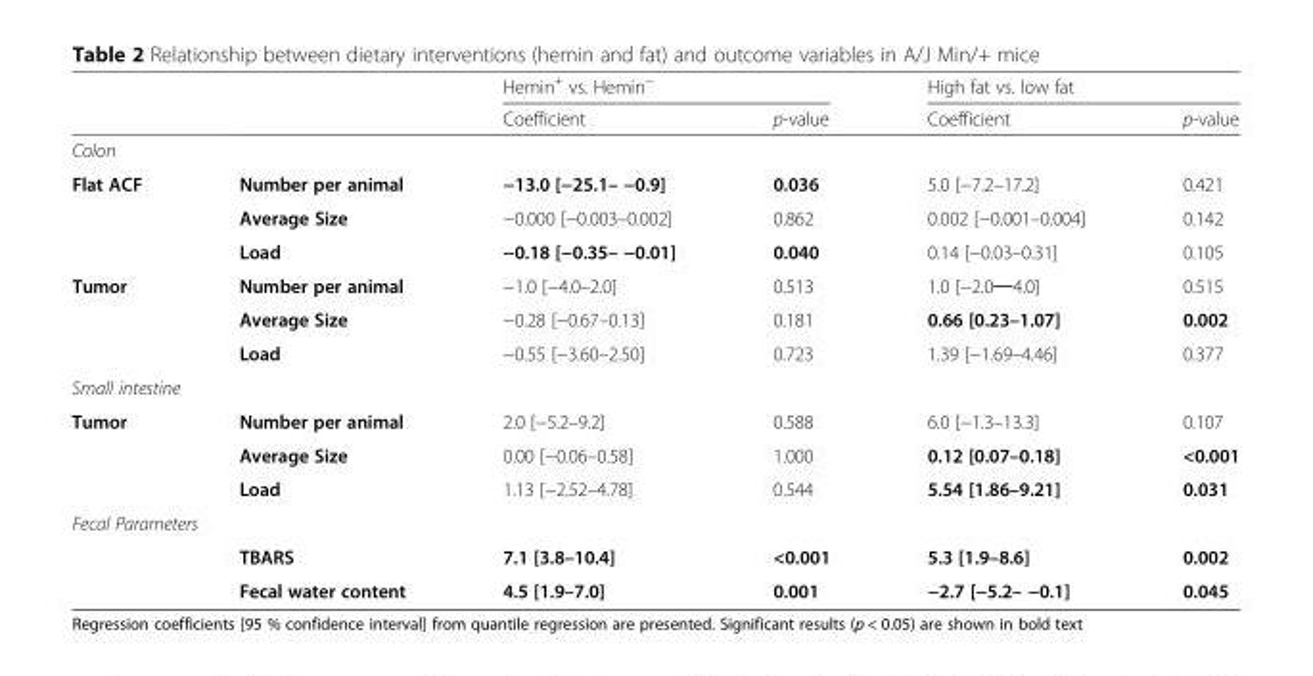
<table><thead><tr><td rowspan="2"></td><td rowspan="2"></td><td colspan="2">Hemin<sup>+</sup> vs. Hemin<sup>−</sup></td><td colspan="2">High fat vs. low fat</td></tr><tr><td>Coefficient</td><td>p-value</td><td>Coefficient</td><td>p-value</td></tr></thead><tbody><tr><td colspan="6">Colon</td></tr><tr><td rowspan="3">Flat ACF</td><td>Number per animal</td><td>−13.0 [−25.1– −0.9]</td><td>0.036</td><td>5.0 [−7.2–17.2]</td><td>0.421</td></tr><tr><td>Average Size</td><td>−0.000 [−0.003–0.002]</td><td>0.862</td><td>0.002 [−0.001–0.004]</td><td>0.142</td></tr><tr><td>Load</td><td>−0.18 [−0.35– −0.01]</td><td>0.040</td><td>0.14 [−0.03–0.31]</td><td>0.105</td></tr><tr><td rowspan="3">Tumor</td><td>Number per animal</td><td>−1.0 [−4.0–2.0]</td><td>0.513</td><td>1.0 [−2.0─4.0]</td><td>0.515</td></tr><tr><td>Average Size</td><td>−0.28 [−0.67–0.13]</td><td>0.181</td><td>0.66 [0.23–1.07]</td><td>0.002</td></tr><tr><td>Load</td><td>−0.55 [−3.60–2.50]</td><td>0.723</td><td>1.39 [−1.69–4.46]</td><td>0.377</td></tr><tr><td colspan="6">Small intestine</td></tr><tr><td rowspan="3">Tumor</td><td>Number per animal</td><td>2.0 [−5.2–9.2]</td><td>0.588</td><td>6.0 [−1.3–13.3]</td><td>0.107</td></tr><tr><td>Average Size</td><td>0.00 [−0.06–0.58]</td><td>1.000</td><td>0.12 [0.07–0.18]</td><td>&lt;0.001</td></tr><tr><td>Load</td><td>1.13 [−2.52–4.78]</td><td>0.544</td><td>5.54 [1.86–9.21]</td><td>0.031</td></tr><tr><td colspan="6">Fecal Parameters</td></tr><tr><td></td><td>TBARS</td><td>7.1 [3.8–10.4]</td><td>&lt;0.001</td><td>5.3 [1.9–8.6]</td><td>0.002</td></tr><tr><td></td><td>Fecal water content</td><td>4.5 [1.9–7.0]</td><td>0.001</td><td>−2.7 [−5.2– −0.1]</td><td>0.045</td></tr></tbody></table>